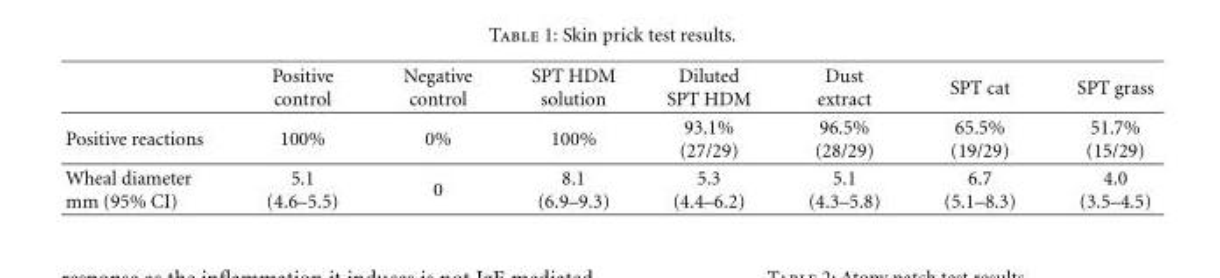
<table><thead><tr><td></td><td>Positive control</td><td>Negative control</td><td>SPT HDM solution</td><td>Diluted SPT HDM</td><td>Dust extract</td><td>SPT cat</td><td>SPT grass</td></tr></thead><tbody><tr><td>Positive reactions</td><td>100%</td><td>0%</td><td>100%</td><td>93.1% (27/29)</td><td>96.5% (28/29)</td><td>65.5% (19/29)</td><td>51.7% (15/29)</td></tr><tr><td>Wheal diameter mm (95% CI)</td><td>5.1 (4.6–5.5)</td><td>0</td><td>8.1 (6.9–9.3)</td><td>5.3 (4.4–6.2)</td><td>5.1 (4.3–5.8)</td><td>6.7 (5.1–8.3)</td><td>4.0 (3.5–4.5)</td></tr></tbody></table>